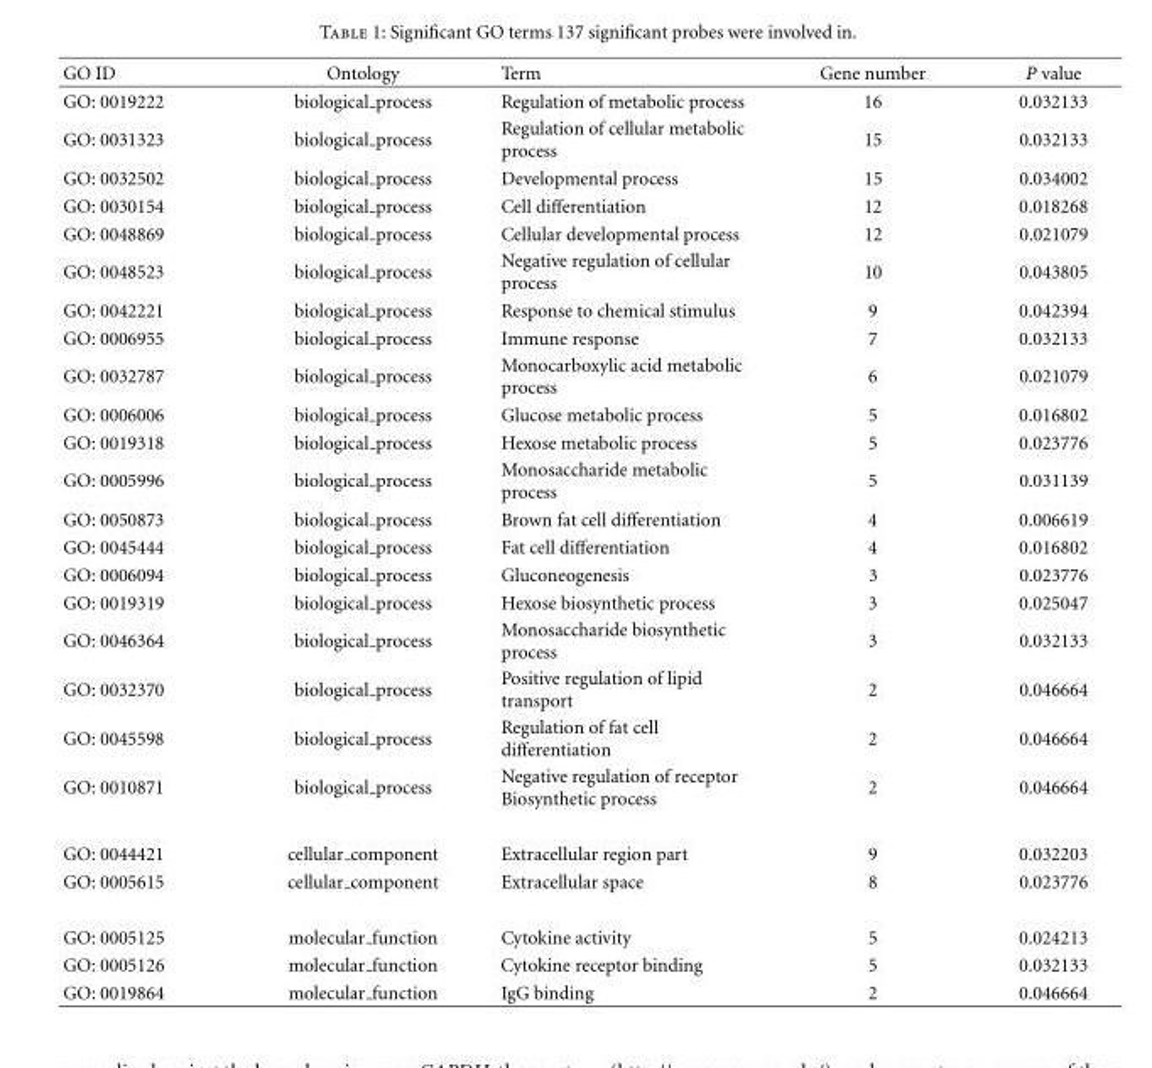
<table><thead><tr><td>GO ID</td><td>Ontology</td><td>Term</td><td>Gene number</td><td>P value</td></tr></thead><tbody><tr><td>GO: 0019222</td><td>biological process</td><td>Regulation of metabolic process</td><td>16</td><td>0.032133</td></tr><tr><td>GO: 0031323</td><td>biological process</td><td>Regulation of cellular metabolic process</td><td>15</td><td>0.032133</td></tr><tr><td>GO: 0032502</td><td>biological process</td><td>Developmental process</td><td>15</td><td>0.034002</td></tr><tr><td>GO: 0030154</td><td>biological process</td><td>Cell differentiation</td><td>12</td><td>0.018268</td></tr><tr><td>GO: 0048869</td><td>biological process</td><td>Cellular developmental process</td><td>12</td><td>0.021079</td></tr><tr><td>GO: 0048523</td><td>biological process</td><td>Negative regulation of cellular process</td><td>10</td><td>0.043805</td></tr><tr><td>GO: 0042221</td><td>biological process</td><td>Response to chemical stimulus</td><td>9</td><td>0.042394</td></tr><tr><td>GO: 0006955</td><td>biological process</td><td>Immune response</td><td>7</td><td>0.032133</td></tr><tr><td>GO: 0032787</td><td>biological process</td><td>Monocarboxylic acid metabolic process</td><td>6</td><td>0.021079</td></tr><tr><td>GO: 0006006</td><td>biological process</td><td>Glucose metabolic process</td><td>5</td><td>0.016802</td></tr><tr><td>GO: 0019318</td><td>biological process</td><td>Hexose metabolic process</td><td>5</td><td>0.023776</td></tr><tr><td>GO: 0005996</td><td>biological process</td><td>Monosaccharide metabolic process</td><td>5</td><td>0.031139</td></tr><tr><td>GO: 0050873</td><td>biological process</td><td>Brown fat cell differentiation</td><td>4</td><td>0.006619</td></tr><tr><td>GO: 0045444</td><td>biological process</td><td>Fat cell differentiation</td><td>4</td><td>0.016802</td></tr><tr><td>GO: 0006094</td><td>biological process</td><td>Gluconeogenesis</td><td>3</td><td>0.023776</td></tr><tr><td>GO: 0019319</td><td>biological process</td><td>Hexose biosynthetic process</td><td>3</td><td>0.025047</td></tr><tr><td>GO: 0046364</td><td>biological process</td><td>Monosaccharide biosynthetic process</td><td>3</td><td>0.032133</td></tr><tr><td>GO: 0032370</td><td>biological process</td><td>Positive regulation of lipid transport</td><td>2</td><td>0.046664</td></tr><tr><td>GO: 0045598</td><td>biological process</td><td>Regulation of fat cell differentiation</td><td>2</td><td>0.046664</td></tr><tr><td>GO: 0010871</td><td>biological process</td><td>Negative regulation of receptor Biosynthetic process</td><td>2</td><td>0.046664</td></tr><tr><td>GO: 0044421</td><td>cellular component</td><td>Extracellular region part</td><td>9</td><td>0.032203</td></tr><tr><td>GO: 0005615</td><td>cellular component</td><td>Extracellular space</td><td>8</td><td>0.023776</td></tr><tr><td>GO: 0005125</td><td>molecular function</td><td>Cytokine activity</td><td>5</td><td>0.024213</td></tr><tr><td>GO: 0005126</td><td>molecular function</td><td>Cytokine receptor binding</td><td>5</td><td>0.032133</td></tr><tr><td>GO: 0019864</td><td>molecular function</td><td>IgG binding</td><td>2</td><td>0.046664</td></tr></tbody></table>